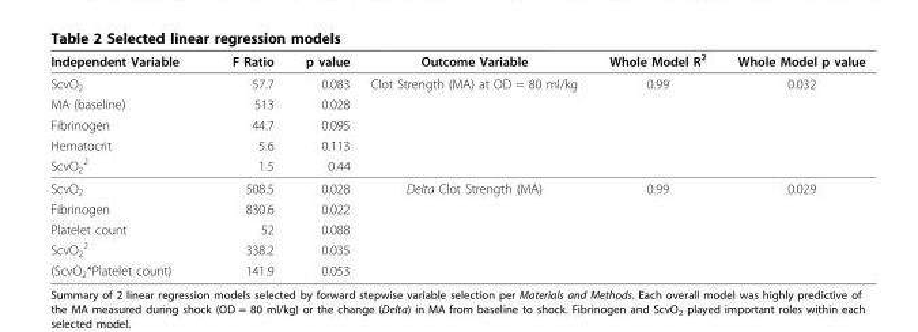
<table><thead><tr><td>Independent Variable</td><td>F Ratio</td><td>p value</td><td>Outcome Variable</td><td>Whole Model R<sup>2</sup></td><td>Whole Model p value</td></tr></thead><tbody><tr><td>ScvO<sub>2</sub></td><td>57.7</td><td>0.083</td><td>Clot Strength (MA) at OD = 80 ml/kg</td><td>0.99</td><td>0.032</td></tr><tr><td>MA (baseline)</td><td>513</td><td>0.028</td><td></td><td></td><td></td></tr><tr><td>Fibrinogen</td><td>44.7</td><td>0.095</td><td></td><td></td><td></td></tr><tr><td>Hematocrit</td><td>5.6</td><td>0.113</td><td></td><td></td><td></td></tr><tr><td>ScvO<sub>2</sub> <sup>2</sup></td><td>1.5</td><td>0.44</td><td></td><td></td><td></td></tr><tr><td>ScvO<sub>2</sub></td><td>508.5</td><td>0.028</td><td>Delta Clot Strength (MA)</td><td>0.99</td><td>0.029</td></tr><tr><td>Fibrinogen</td><td>830.6</td><td>0.022</td><td></td><td></td><td></td></tr><tr><td>Platelet count</td><td>52</td><td>0.088</td><td></td><td></td><td></td></tr><tr><td>ScvO<sub>2</sub> <sup>2</sup></td><td>338.2</td><td>0.035</td><td></td><td></td><td></td></tr><tr><td>(ScvO<sub>2</sub>*Platelet count)</td><td>141.9</td><td>0.053</td><td></td><td></td><td></td></tr></tbody></table>